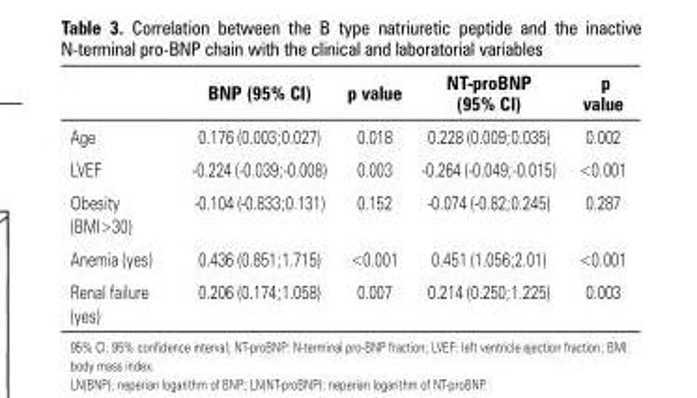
<table><thead><tr><td></td><td>BNP (95% CI)</td><td>p value</td><td>NT-proBNP (95% CI)</td><td>p value</td></tr></thead><tbody><tr><td>Age</td><td>0.176 (0.003;0.027)</td><td>0.018</td><td>0.228 (0.009;0.035)</td><td>0.002</td></tr><tr><td>LVEF</td><td>-0.224 (-0.039;-0.008)</td><td>0.003</td><td>-0.264 (-0.049;-0.015)</td><td>&lt;0.001</td></tr><tr><td>Obesity (BMI&gt;30)</td><td>-0.104 (-0.833;0.131)</td><td>0.152</td><td>-0.074 (-0.82;0.245)</td><td>0.287</td></tr><tr><td>Anemia (yes)</td><td>0.436 (0.851;1.715)</td><td>&lt;0.001</td><td>0.451 (1.056;2.01)</td><td>&lt;0.001</td></tr><tr><td>Renal failure (yes)</td><td>0.206 (0.174;1.058)</td><td>0.007</td><td>0.214 (0.250;1.225)</td><td>0.003</td></tr></tbody></table>